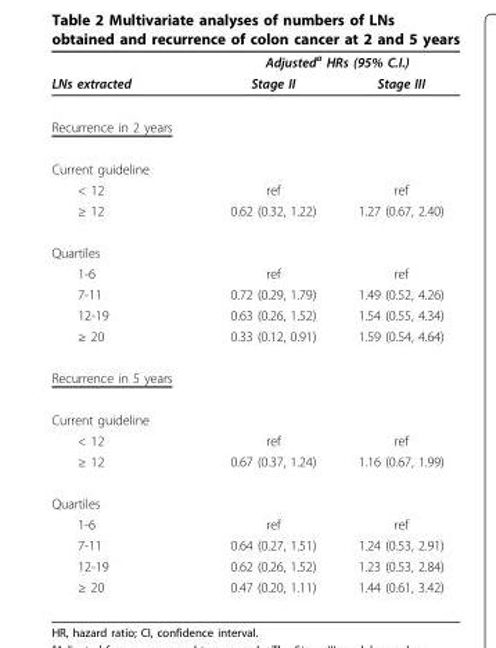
<table><thead><tr><td rowspan="2">LNs extracted</td><td colspan="2">Adjusted<sup>a</sup> HRs (95% C.I.)</td></tr><tr><td>Stage II</td><td>Stage III</td></tr></thead><tbody><tr><td colspan="3">Recurrence in 2 years</td></tr><tr><td colspan="3">Current guideline</td></tr><tr><td>&lt; 12</td><td>ref</td><td>ref</td></tr><tr><td>≥ 12</td><td>0.62 (0.32, 1.22)</td><td>1.27 (0.67, 2.40)</td></tr><tr><td colspan="3">Quartiles</td></tr><tr><td>1-6</td><td>ref</td><td>ref</td></tr><tr><td>7-11</td><td>0.72 (0.29, 1.79)</td><td>1.49 (0.52, 4.26)</td></tr><tr><td>12-19</td><td>0.63 (0.26, 1.52)</td><td>1.54 (0.55, 4.34)</td></tr><tr><td>≥ 20</td><td>0.33 (0.12, 0.91)</td><td>1.59 (0.54, 4.64)</td></tr><tr><td colspan="3">Recurrence in 5 years</td></tr><tr><td colspan="3">Current guideline</td></tr><tr><td>&lt; 12</td><td>ref</td><td>ref</td></tr><tr><td>≥ 12</td><td>0.67 (0.37, 1.24)</td><td>1.16 (0.67, 1.99)</td></tr><tr><td colspan="3">Quartiles</td></tr><tr><td>1-6</td><td>ref</td><td>ref</td></tr><tr><td>7-11</td><td>0.64 (0.27, 1.51)</td><td>1.24 (0.53, 2.91)</td></tr><tr><td>12-19</td><td>0.62 (0.26, 1.52)</td><td>1.23 (0.53, 2.84)</td></tr><tr><td>≥ 20</td><td>0.47 (0.20, 1.11)</td><td>1.44 (0.61, 3.42)</td></tr></tbody></table>